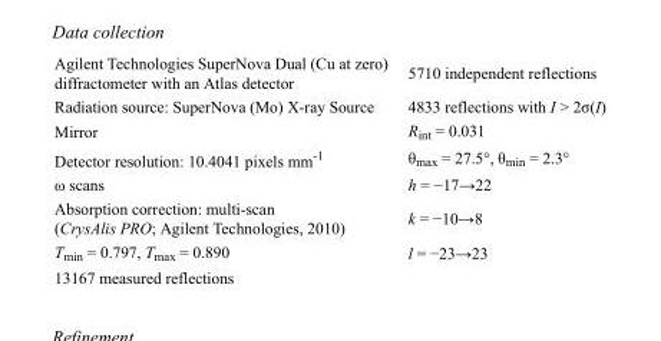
<table><tbody><tr><td>Agilent Technologies SuperNova Dual (Cu at zero) diffractometer with an Atlas detector</td><td>5710 independent reflections</td></tr><tr><td>Radiation source: SuperNova (Mo) X-ray Source</td><td>4833 reflections with I &gt; 2σ(I)</td></tr><tr><td>Mirror</td><td>R<sub>int</sub> = 0.031</td></tr><tr><td>Detector resolution: 10.4041 pixels mm<sup>-1</sup></td><td>θ<sub>max</sub> = 27.5°, θ<sub>min</sub> = 2.3°</td></tr><tr><td>ω scans</td><td>h = −17→22</td></tr><tr><td>Absorption correction: multi-scan (CrysAlis PRO; Agilent Technologies, 2010)</td><td>k = −10→8</td></tr><tr><td>T<sub>min</sub> = 0.797, T<sub>max</sub> = 0.890</td><td>l = −23→23</td></tr><tr><td>13167 measured reflections</td><td></td></tr></tbody></table>